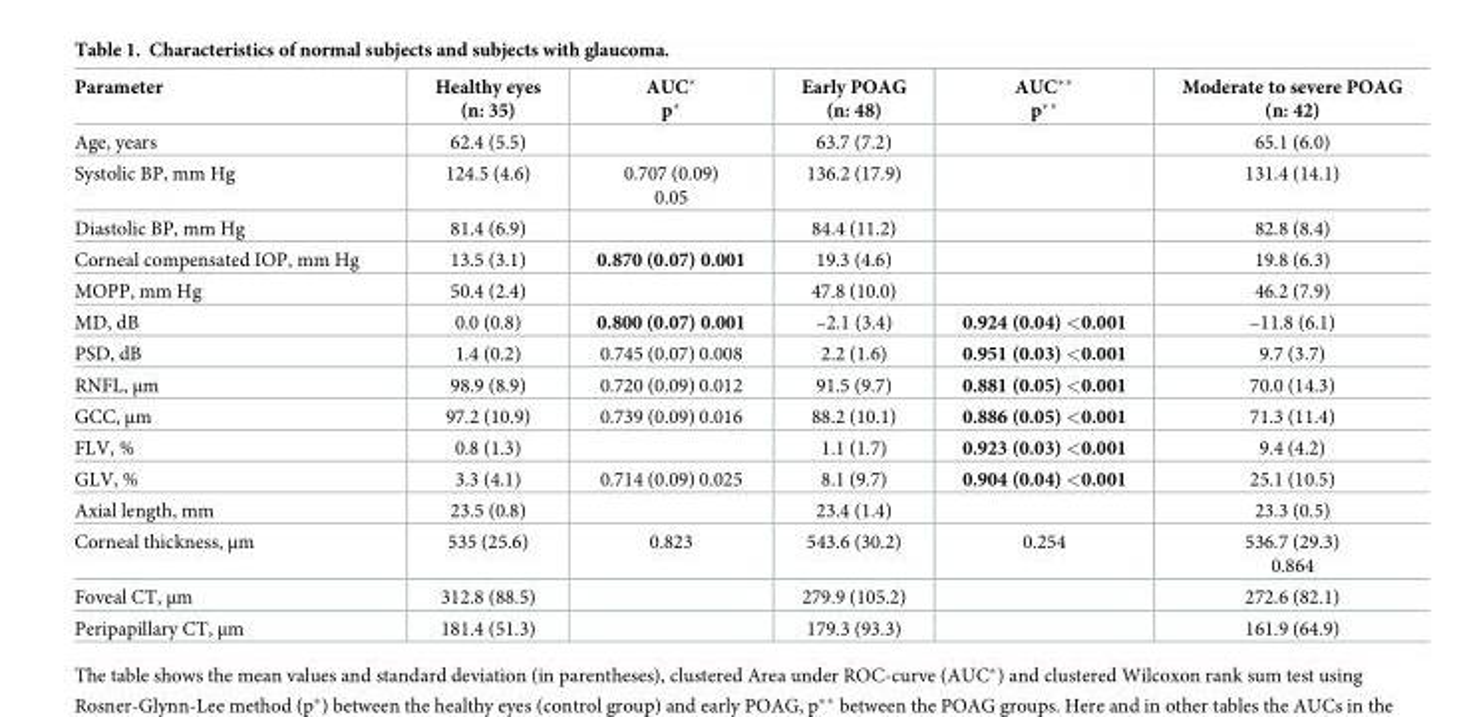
<table><thead><tr><td>Parameter</td><td>Healthy eyes (n: 35)</td><td>AUC* p*</td><td>Early POAG (n: 48)</td><td>AUC** p**</td><td>Moderate to severe POAG (n: 42)</td></tr></thead><tbody><tr><td>Age, years</td><td>62.4 (5.5)</td><td></td><td>63.7 (7.2)</td><td></td><td>65.1 (6.0)</td></tr><tr><td>Systolic BP, mm Hg</td><td>124.5 (4.6)</td><td>0.707 (0.09) 0.05</td><td>136.2 (17.9)</td><td></td><td>131.4 (14.1)</td></tr><tr><td>Diastolic BP, mm Hg</td><td>81.4 (6.9)</td><td></td><td>84.4 (11.2)</td><td></td><td>82.8 (8.4)</td></tr><tr><td>Corneal compensated IOP, mm Hg</td><td>13.5 (3.1)</td><td>0.870 (0.07) 0.001</td><td>19.3 (4.6)</td><td></td><td>19.8 (6.3)</td></tr><tr><td>MOPP, mm Hg</td><td>50.4 (2.4)</td><td></td><td>47.8 (10.0)</td><td></td><td>46.2 (7.9)</td></tr><tr><td>MD, dB</td><td>0.0 (0.8)</td><td>0.800 (0.07) 0.001</td><td>–2.1 (3.4)</td><td>0.924 (0.04) &lt;0.001</td><td>–11.8 (6.1)</td></tr><tr><td>PSD, dB</td><td>1.4 (0.2)</td><td>0.745 (0.07) 0.008</td><td>2.2 (1.6)</td><td>0.951 (0.03) &lt;0.001</td><td>9.7 (3.7)</td></tr><tr><td>RNFL, μm</td><td>98.9 (8.9)</td><td>0.720 (0.09) 0.012</td><td>91.5 (9.7)</td><td>0.881 (0.05) &lt;0.001</td><td>70.0 (14.3)</td></tr><tr><td>GCC, μm</td><td>97.2 (10.9)</td><td>0.739 (0.09) 0.016</td><td>88.2 (10.1)</td><td>0.886 (0.05) &lt;0.001</td><td>71.3 (11.4)</td></tr><tr><td>FLV, %</td><td>0.8 (1.3)</td><td></td><td>1.1 (1.7)</td><td>0.923 (0.03) &lt;0.001</td><td>9.4 (4.2)</td></tr><tr><td>GLV, %</td><td>3.3 (4.1)</td><td>0.714 (0.09) 0.025</td><td>8.1 (9.7)</td><td>0.904 (0.04) &lt;0.001</td><td>25.1 (10.5)</td></tr><tr><td>Axial length, mm</td><td>23.5 (0.8)</td><td></td><td>23.4 (1.4)</td><td></td><td>23.3 (0.5)</td></tr><tr><td>Corneal thickness, μm</td><td>535 (25.6)</td><td>0.823</td><td>543.6 (30.2)</td><td>0.254</td><td>536.7 (29.3) 0.864</td></tr><tr><td>Foveal CT, μm</td><td>312.8 (88.5)</td><td></td><td>279.9 (105.2)</td><td></td><td>272.6 (82.1)</td></tr><tr><td>Peripapillary CT, μm</td><td>181.4 (51.3)</td><td></td><td>179.3 (93.3)</td><td></td><td>161.9 (64.9)</td></tr></tbody></table>